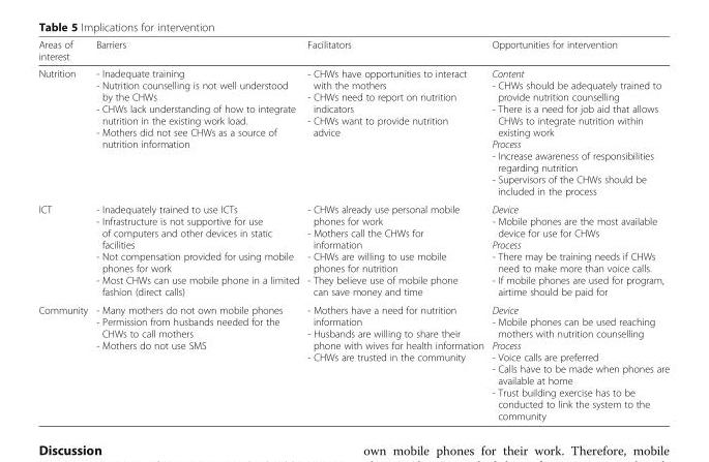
<table><thead><tr><td>Areas of interest</td><td>Barriers</td><td>Facilitators</td><td>Opportunities for intervention</td></tr></thead><tbody><tr><td>Nutrition</td><td>- Inadequate training - Nutrition counselling is not well understood by the CHWs - CHWs lack understanding of how to integrate nutrition in the existing work load. - Mothers did not see CHWs as a source of nutrition information</td><td>- CHWs have opportunities to interact with the mothers - CHWs need to report on nutrition indicators - CHWs want to provide nutrition advice</td><td>Content - CHWs should be adequately trained to provide nutrition counselling - There is a need for job aid that allows CHWs to integrate nutrition within existing work Process - Increase awareness of responsibilities regarding nutrition - Supervisors of the CHWs should be included in the process</td></tr><tr><td>ICT</td><td>- Inadequately trained to use ICTs - Infrastructure is not supportive for use of computers and other devices in static facilities - Not compensation provided for using mobile phones for work - Most CHWs can use mobile phone in a limited fashion (direct calls)</td><td>- CHWs already use personal mobile phones for work - Mothers call the CHWs for information - CHWs are willing to use mobile phones for nutrition - They believe use of mobile phone can save money and time</td><td>Device - Mobile phones are the most available device for use for CHWs Process - There may be training needs if CHWs need to make more than voice calls. - If mobile phones are used for program, airtime should be paid for</td></tr><tr><td>Community</td><td>- Many mothers do not own mobile phones - Permission from husbands needed for the CHWs to call mothers - Mothers do not use SMS</td><td>- Mothers have a need for nutrition information - Husbands are willing to share their phone with wives for health information - CHWs are trusted in the community</td><td>Device - Mobile phones can be used reaching mothers with nutrition counselling Process - Voice calls are preferred - Calls have to be made when phones are available at home - Trust building exercise has to be conducted to link the system to the community</td></tr></tbody></table>